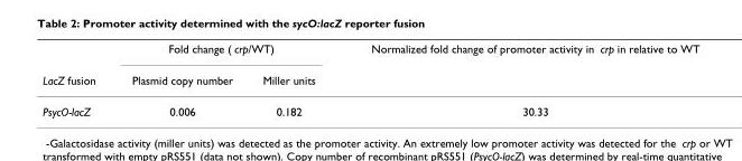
<table><thead><tr><td rowspan="2">LacZ fusion</td><td colspan="2">Fold change ( crp/WT)</td><td rowspan="2">Normalized fold change of promoter activity in crp in relative to WT</td></tr><tr><td>Plasmid copy number</td><td>Miller units</td></tr></thead><tbody><tr><td>PsycO-lacZ</td><td>0.006</td><td>0.182</td><td>30.33</td></tr></tbody></table>